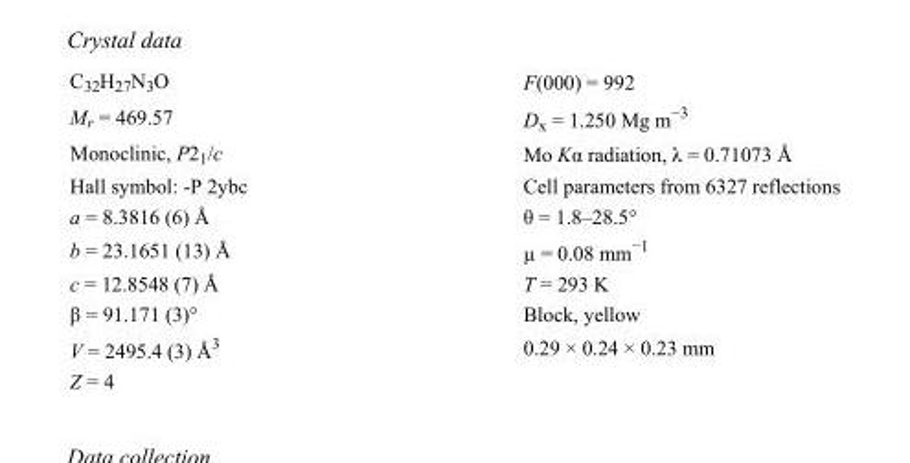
<table><tbody><tr><td>C<sub>32</sub>H<sub>27</sub>N<sub>3</sub>O</td><td>F(000) = 992</td></tr><tr><td>M<sub>r</sub> = 469.57</td><td>D<sub>x</sub> = 1.250 Mg m<sup>−3</sup></td></tr><tr><td>Monoclinic, P2<sub>1</sub>/c</td><td>Mo Kα radiation, λ = 0.71073 Å</td></tr><tr><td>Hall symbol: -P 2ybc</td><td>Cell parameters from 6327 reflections</td></tr><tr><td>a = 8.3816 (6) Å</td><td>θ = 1.8–28.5°</td></tr><tr><td>b = 23.1651 (13) Å</td><td>µ = 0.08 mm<sup>−1</sup></td></tr><tr><td>c = 12.8548 (7) Å</td><td>T = 293 K</td></tr><tr><td>β = 91.171 (3)°</td><td>Block, yellow</td></tr><tr><td>V = 2495.4 (3) Å<sup>3</sup></td><td>0.29 × 0.24 × 0.23 mm</td></tr><tr><td>Z = 4</td><td></td></tr></tbody></table>